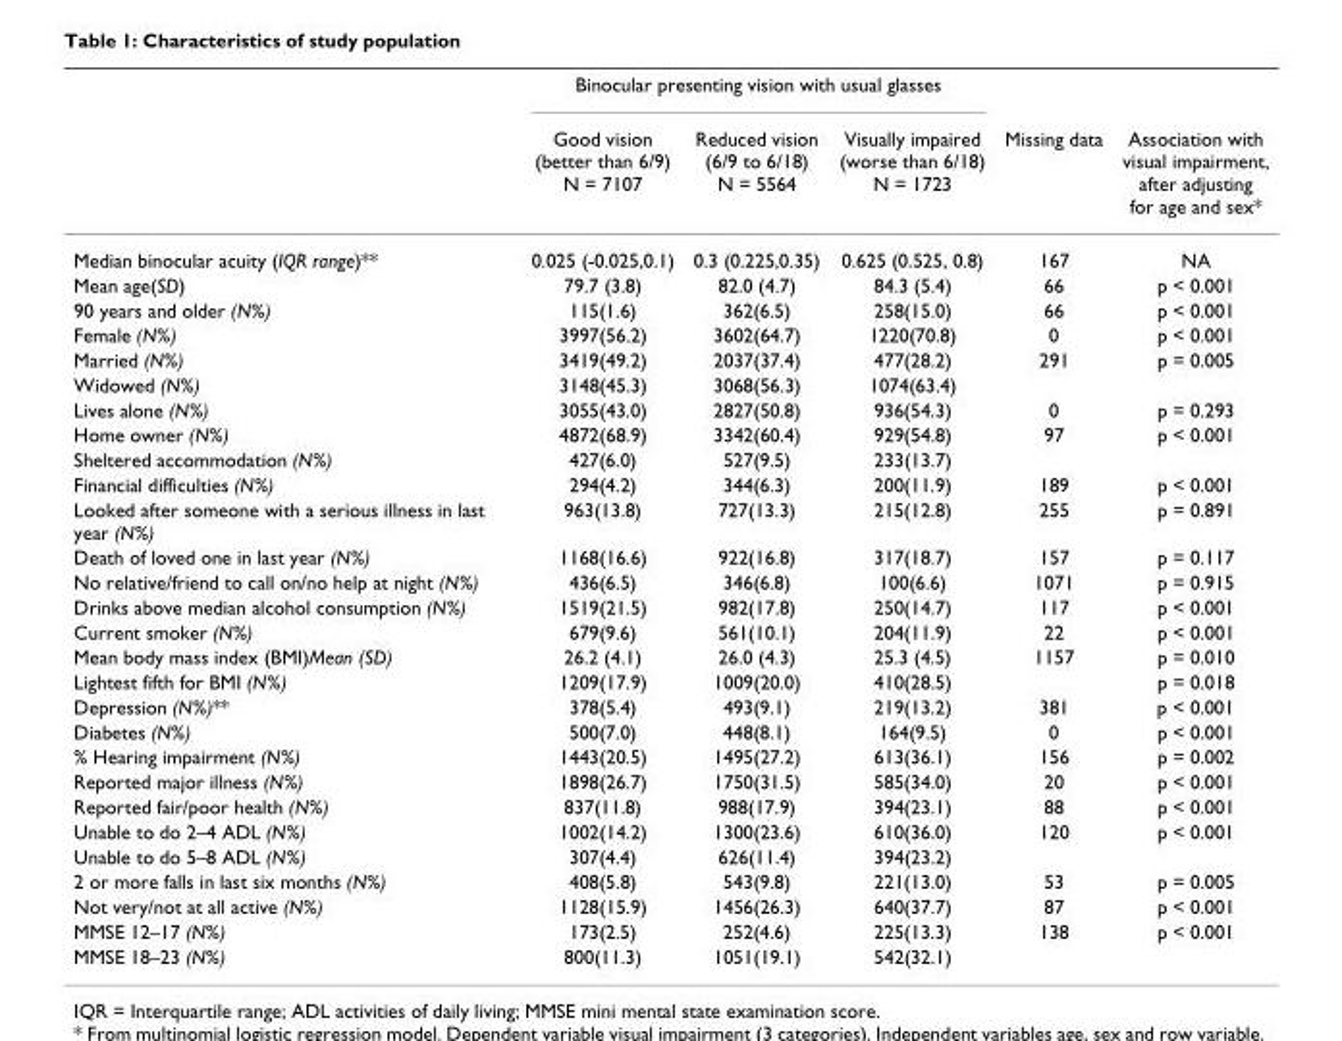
<table><thead><tr><td rowspan="2"></td><td colspan="3">Binocular presenting vision with usual glasses</td><td rowspan="2">Missing data</td><td rowspan="2">Association with visual impairment, after adjusting for age and sex*</td></tr><tr><td>Good vision (better than 6/9) N = 7107</td><td>Reduced vision (6/9 to 6/18) N = 5564</td><td>Visually impaired (worse than 6/18) N = 1723</td></tr></thead><tbody><tr><td>Median binocular acuity (IQR range)**</td><td>0.025 (-0.025,0.1)</td><td>0.3 (0.225,0.35)</td><td>0.625 (0.525, 0.8)</td><td>167</td><td>NA</td></tr><tr><td>Mean age(SD)</td><td>79.7 (3.8)</td><td>82.0 (4.7)</td><td>84.3 (5.4)</td><td>66</td><td>p &lt; 0.001</td></tr><tr><td>90 years and older (N%)</td><td>115(1.6)</td><td>362(6.5)</td><td>258(15.0)</td><td>66</td><td>p &lt; 0.001</td></tr><tr><td>Female (N%)</td><td>3997(56.2)</td><td>3602(64.7)</td><td>1220(70.8)</td><td>0</td><td>p &lt; 0.001</td></tr><tr><td>Married (N%)</td><td>3419(49.2)</td><td>2037(37.4)</td><td>477(28.2)</td><td>291</td><td>p = 0.005</td></tr><tr><td>Widowed (N%)</td><td>3148(45.3)</td><td>3068(56.3)</td><td>1074(63.4)</td><td></td><td></td></tr><tr><td>Lives alone (N%)</td><td>3055(43.0)</td><td>2827(50.8)</td><td>936(54.3)</td><td>0</td><td>p = 0.293</td></tr><tr><td>Home owner (N%)</td><td>4872(68.9)</td><td>3342(60.4)</td><td>929(54.8)</td><td>97</td><td>p &lt; 0.001</td></tr><tr><td>Sheltered accommodation (N%)</td><td>427(6.0)</td><td>527(9.5)</td><td>233(13.7)</td><td></td><td></td></tr><tr><td>Financial difficulties (N%)</td><td>294(4.2)</td><td>344(6.3)</td><td>200(11.9)</td><td>189</td><td>p &lt; 0.001</td></tr><tr><td>Looked after someone with a serious illness in last year (N%)</td><td>963(13.8)</td><td>727(13.3)</td><td>215(12.8)</td><td>255</td><td>p = 0.891</td></tr><tr><td>Death of loved one in last year (N%)</td><td>1168(16.6)</td><td>922(16.8)</td><td>317(18.7)</td><td>157</td><td>p = 0.117</td></tr><tr><td>No relative/friend to call on/no help at night (N%)</td><td>436(6.5)</td><td>346(6.8)</td><td>100(6.6)</td><td>1071</td><td>p = 0.915</td></tr><tr><td>Drinks above median alcohol consumption (N%)</td><td>1519(21.5)</td><td>982(17.8)</td><td>250(14.7)</td><td>117</td><td>p &lt; 0.001</td></tr><tr><td>Current smoker (N%)</td><td>679(9.6)</td><td>561(10.1)</td><td>204(11.9)</td><td>22</td><td>p &lt; 0.001</td></tr><tr><td>Mean body mass index (BMI)Mean (SD)</td><td>26.2 (4.1)</td><td>26.0 (4.3)</td><td>25.3 (4.5)</td><td>1157</td><td>p = 0.010</td></tr><tr><td>Lightest fifth for BMI (N%)</td><td>1209(17.9)</td><td>1009(20.0)</td><td>410(28.5)</td><td></td><td>p = 0.018</td></tr><tr><td>Depression (N%)**</td><td>378(5.4)</td><td>493(9.1)</td><td>219(13.2)</td><td>381</td><td>p &lt; 0.001</td></tr><tr><td>Diabetes (N%)</td><td>500(7.0)</td><td>448(8.1)</td><td>164(9.5)</td><td>0</td><td>p &lt; 0.001</td></tr><tr><td>% Hearing impairment (N%)</td><td>1443(20.5)</td><td>1495(27.2)</td><td>613(36.1)</td><td>156</td><td>p = 0.002</td></tr><tr><td>Reported major illness (N%)</td><td>1898(26.7)</td><td>1750(31.5)</td><td>585(34.0)</td><td>20</td><td>p &lt; 0.001</td></tr><tr><td>Reported fair/poor health (N%)</td><td>837(11.8)</td><td>988(17.9)</td><td>394(23.1)</td><td>88</td><td>p &lt; 0.001</td></tr><tr><td>Unable to do 2–4 ADL (N%)</td><td>1002(14.2)</td><td>1300(23.6)</td><td>610(36.0)</td><td>120</td><td>p &lt; 0.001</td></tr><tr><td>Unable to do 5–8 ADL (N%)</td><td>307(4.4)</td><td>626(11.4)</td><td>394(23.2)</td><td></td><td></td></tr><tr><td>2 or more falls in last six months (N%)</td><td>408(5.8)</td><td>543(9.8)</td><td>221(13.0)</td><td>53</td><td>p = 0.005</td></tr><tr><td>Not very/not at all active (N%)</td><td>1128(15.9)</td><td>1456(26.3)</td><td>640(37.7)</td><td>87</td><td>p &lt; 0.001</td></tr><tr><td>MMSE 12–17 (N%)</td><td>173(2.5)</td><td>252(4.6)</td><td>225(13.3)</td><td>138</td><td>p &lt; 0.001</td></tr><tr><td>MMSE 18–23 (N%)</td><td>800(11.3)</td><td>1051(19.1)</td><td>542(32.1)</td><td></td><td></td></tr></tbody></table>